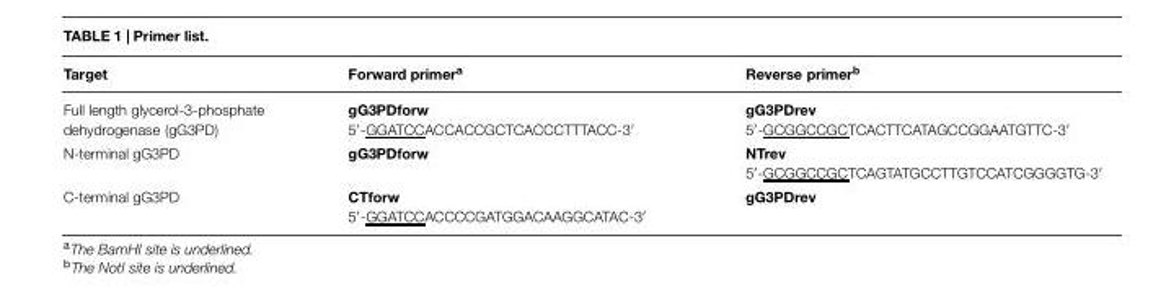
<table><thead><tr><td>Target</td><td>Forward primer<sup>a</sup></td><td>Reverse primer<sup>b</sup></td></tr></thead><tbody><tr><td>Full length glycerol-3-phosphate dehydrogenase (gG3PD)</td><td>gG3PDforw 5′-GGATCCACCACCGCTCACCCTTTACC-3′</td><td>gG3PDrev 5′-GCGGCCGCTCACTTCATAGCCGGAATGTTC-3′</td></tr><tr><td>N-terminal gG3PD</td><td>gG3PDforw</td><td>NTrev 5′-GCGGCCGCTCAGTATGCCTTGTCCATCGGGGTG-3′</td></tr><tr><td>C-terminal gG3PD</td><td>CTforw 5′-GGATCCACCCCGATGGACAAGGCATAC-3′</td><td>gG3PDrev</td></tr></tbody></table>